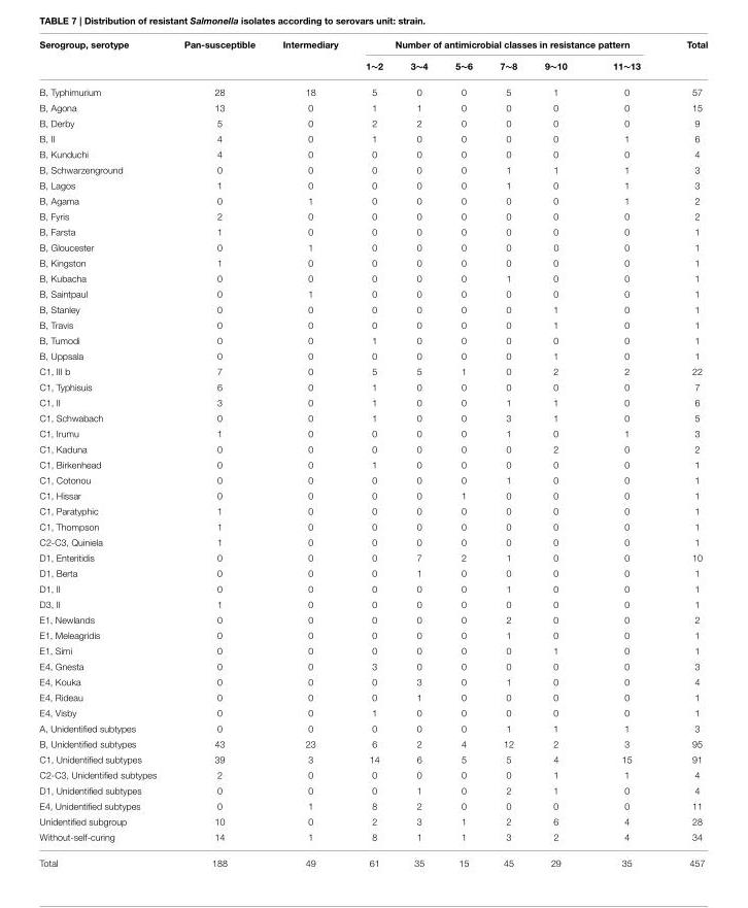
<table><thead><tr><td rowspan="2">Serogroup, serotype</td><td rowspan="2">Pan-susceptible</td><td rowspan="2">Intermediary</td><td colspan="6">Number of antimicrobial classes in resistance pattern</td><td rowspan="2">Total</td></tr><tr><td>1∼2</td><td>3∼4</td><td>5∼6</td><td>7∼8</td><td>9∼10</td><td>11∼13</td></tr></thead><tbody><tr><td>B, Typhimurium</td><td>28</td><td>18</td><td>5</td><td>0</td><td>0</td><td>5</td><td>1</td><td>0</td><td>57</td></tr><tr><td>B, Agona</td><td>13</td><td>0</td><td>1</td><td>1</td><td>0</td><td>0</td><td>0</td><td>0</td><td>15</td></tr><tr><td>B, Derby</td><td>5</td><td>0</td><td>2</td><td>2</td><td>0</td><td>0</td><td>0</td><td>0</td><td>9</td></tr><tr><td>B, II</td><td>4</td><td>0</td><td>1</td><td>0</td><td>0</td><td>0</td><td>0</td><td>1</td><td>6</td></tr><tr><td>B, Kunduchi</td><td>4</td><td>0</td><td>0</td><td>0</td><td>0</td><td>0</td><td>0</td><td>0</td><td>4</td></tr><tr><td>B, Schwarzenground</td><td>0</td><td>0</td><td>0</td><td>0</td><td>0</td><td>1</td><td>1</td><td>1</td><td>3</td></tr><tr><td>B, Lagos</td><td>1</td><td>0</td><td>0</td><td>0</td><td>0</td><td>1</td><td>0</td><td>1</td><td>3</td></tr><tr><td>B, Agama</td><td>0</td><td>1</td><td>0</td><td>0</td><td>0</td><td>0</td><td>0</td><td>1</td><td>2</td></tr><tr><td>B, Fyris</td><td>2</td><td>0</td><td>0</td><td>0</td><td>0</td><td>0</td><td>0</td><td>0</td><td>2</td></tr><tr><td>B, Farsta</td><td>1</td><td>0</td><td>0</td><td>0</td><td>0</td><td>0</td><td>0</td><td>0</td><td>1</td></tr><tr><td>B, Gloucester</td><td>0</td><td>1</td><td>0</td><td>0</td><td>0</td><td>0</td><td>0</td><td>0</td><td>1</td></tr><tr><td>B, Kingston</td><td>1</td><td>0</td><td>0</td><td>0</td><td>0</td><td>0</td><td>0</td><td>0</td><td>1</td></tr><tr><td>B, Kubacha</td><td>0</td><td>0</td><td>0</td><td>0</td><td>0</td><td>1</td><td>0</td><td>0</td><td>1</td></tr><tr><td>B, Saintpaul</td><td>0</td><td>1</td><td>0</td><td>0</td><td>0</td><td>0</td><td>0</td><td>0</td><td>1</td></tr><tr><td>B, Stanley</td><td>0</td><td>0</td><td>0</td><td>0</td><td>0</td><td>0</td><td>1</td><td>0</td><td>1</td></tr><tr><td>B, Travis</td><td>0</td><td>0</td><td>0</td><td>0</td><td>0</td><td>0</td><td>1</td><td>0</td><td>1</td></tr><tr><td>B, Tumodi</td><td>0</td><td>0</td><td>1</td><td>0</td><td>0</td><td>0</td><td>0</td><td>0</td><td>1</td></tr><tr><td>B, Uppsala</td><td>0</td><td>0</td><td>0</td><td>0</td><td>0</td><td>0</td><td>1</td><td>0</td><td>1</td></tr><tr><td>C1, III b</td><td>7</td><td>0</td><td>5</td><td>5</td><td>1</td><td>0</td><td>2</td><td>2</td><td>22</td></tr><tr><td>C1, Typhisuis</td><td>6</td><td>0</td><td>1</td><td>0</td><td>0</td><td>0</td><td>0</td><td>0</td><td>7</td></tr><tr><td>C1, II</td><td>3</td><td>0</td><td>1</td><td>0</td><td>0</td><td>1</td><td>1</td><td>0</td><td>6</td></tr><tr><td>C1, Schwabach</td><td>0</td><td>0</td><td>1</td><td>0</td><td>0</td><td>3</td><td>1</td><td>0</td><td>5</td></tr><tr><td>C1, Irumu</td><td>1</td><td>0</td><td>0</td><td>0</td><td>0</td><td>1</td><td>0</td><td>1</td><td>3</td></tr><tr><td>C1, Kaduna</td><td>0</td><td>0</td><td>0</td><td>0</td><td>0</td><td>0</td><td>2</td><td>0</td><td>2</td></tr><tr><td>C1, Birkenhead</td><td>0</td><td>0</td><td>1</td><td>0</td><td>0</td><td>0</td><td>0</td><td>0</td><td>1</td></tr><tr><td>C1, Cotonou</td><td>0</td><td>0</td><td>0</td><td>0</td><td>0</td><td>1</td><td>0</td><td>0</td><td>1</td></tr><tr><td>C1, Hissar</td><td>0</td><td>0</td><td>0</td><td>0</td><td>1</td><td>0</td><td>0</td><td>0</td><td>1</td></tr><tr><td>C1, Paratyphic</td><td>1</td><td>0</td><td>0</td><td>0</td><td>0</td><td>0</td><td>0</td><td>0</td><td>1</td></tr><tr><td>C1, Thompson</td><td>1</td><td>0</td><td>0</td><td>0</td><td>0</td><td>0</td><td>0</td><td>0</td><td>1</td></tr><tr><td>C2-C3, Quiniela</td><td>1</td><td>0</td><td>0</td><td>0</td><td>0</td><td>0</td><td>0</td><td>0</td><td>1</td></tr><tr><td>D1, Enteritidis</td><td>0</td><td>0</td><td>0</td><td>7</td><td>2</td><td>1</td><td>0</td><td>0</td><td>10</td></tr><tr><td>D1, Berta</td><td>0</td><td>0</td><td>0</td><td>1</td><td>0</td><td>0</td><td>0</td><td>0</td><td>1</td></tr><tr><td>D1, II</td><td>0</td><td>0</td><td>0</td><td>0</td><td>0</td><td>1</td><td>0</td><td>0</td><td>1</td></tr><tr><td>D3, II</td><td>1</td><td>0</td><td>0</td><td>0</td><td>0</td><td>0</td><td>0</td><td>0</td><td>1</td></tr><tr><td>E1, Newlands</td><td>0</td><td>0</td><td>0</td><td>0</td><td>0</td><td>2</td><td>0</td><td>0</td><td>2</td></tr><tr><td>E1, Meleagridis</td><td>0</td><td>0</td><td>0</td><td>0</td><td>0</td><td>1</td><td>0</td><td>0</td><td>1</td></tr><tr><td>E1, Simi</td><td>0</td><td>0</td><td>0</td><td>0</td><td>0</td><td>0</td><td>1</td><td>0</td><td>1</td></tr><tr><td>E4, Gnesta</td><td>0</td><td>0</td><td>3</td><td>0</td><td>0</td><td>0</td><td>0</td><td>0</td><td>3</td></tr><tr><td>E4, Kouka</td><td>0</td><td>0</td><td>0</td><td>3</td><td>0</td><td>1</td><td>0</td><td>0</td><td>4</td></tr><tr><td>E4, Rideau</td><td>0</td><td>0</td><td>0</td><td>1</td><td>0</td><td>0</td><td>0</td><td>0</td><td>1</td></tr><tr><td>E4, Visby</td><td>0</td><td>0</td><td>1</td><td>0</td><td>0</td><td>0</td><td>0</td><td>0</td><td>1</td></tr><tr><td>A, Unidentified subtypes</td><td>0</td><td>0</td><td>0</td><td>0</td><td>0</td><td>1</td><td>1</td><td>1</td><td>3</td></tr><tr><td>B, Unidentified subtypes</td><td>43</td><td>23</td><td>6</td><td>2</td><td>4</td><td>12</td><td>2</td><td>3</td><td>95</td></tr><tr><td>C1, Unidentified subtypes</td><td>39</td><td>3</td><td>14</td><td>6</td><td>5</td><td>5</td><td>4</td><td>15</td><td>91</td></tr><tr><td>C2-C3, Unidentified subtypes</td><td>2</td><td>0</td><td>0</td><td>0</td><td>0</td><td>0</td><td>1</td><td>1</td><td>4</td></tr><tr><td>D1, Unidentified subtypes</td><td>0</td><td>0</td><td>0</td><td>1</td><td>0</td><td>2</td><td>1</td><td>0</td><td>4</td></tr><tr><td>E4, Unidentified subtypes</td><td>0</td><td>1</td><td>8</td><td>2</td><td>0</td><td>0</td><td>0</td><td>0</td><td>11</td></tr><tr><td>Unidentified subgroup</td><td>10</td><td>0</td><td>2</td><td>3</td><td>1</td><td>2</td><td>6</td><td>4</td><td>28</td></tr><tr><td>Without-self-curing</td><td>14</td><td>1</td><td>8</td><td>1</td><td>1</td><td>3</td><td>2</td><td>4</td><td>34</td></tr><tr><td>Total</td><td>188</td><td>49</td><td>61</td><td>35</td><td>15</td><td>45</td><td>29</td><td>35</td><td>457</td></tr></tbody></table>